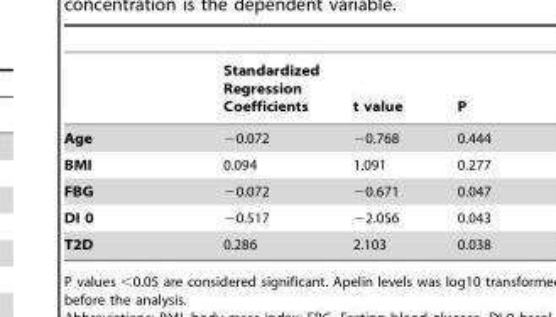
<table><thead><tr><td></td><td>Standardized Regression Coefficients</td><td>t value</td><td>P</td></tr></thead><tbody><tr><td>Age</td><td>−0.072</td><td>−0.768</td><td>0.444</td></tr><tr><td>BMI</td><td>0.094</td><td>1.091</td><td>0.277</td></tr><tr><td>FBG</td><td>−0.072</td><td>−0.671</td><td>0.047</td></tr><tr><td>DI 0</td><td>−0.517</td><td>−2.056</td><td>0.043</td></tr><tr><td>T2D</td><td>0.286</td><td>2.103</td><td>0.038</td></tr></tbody></table>